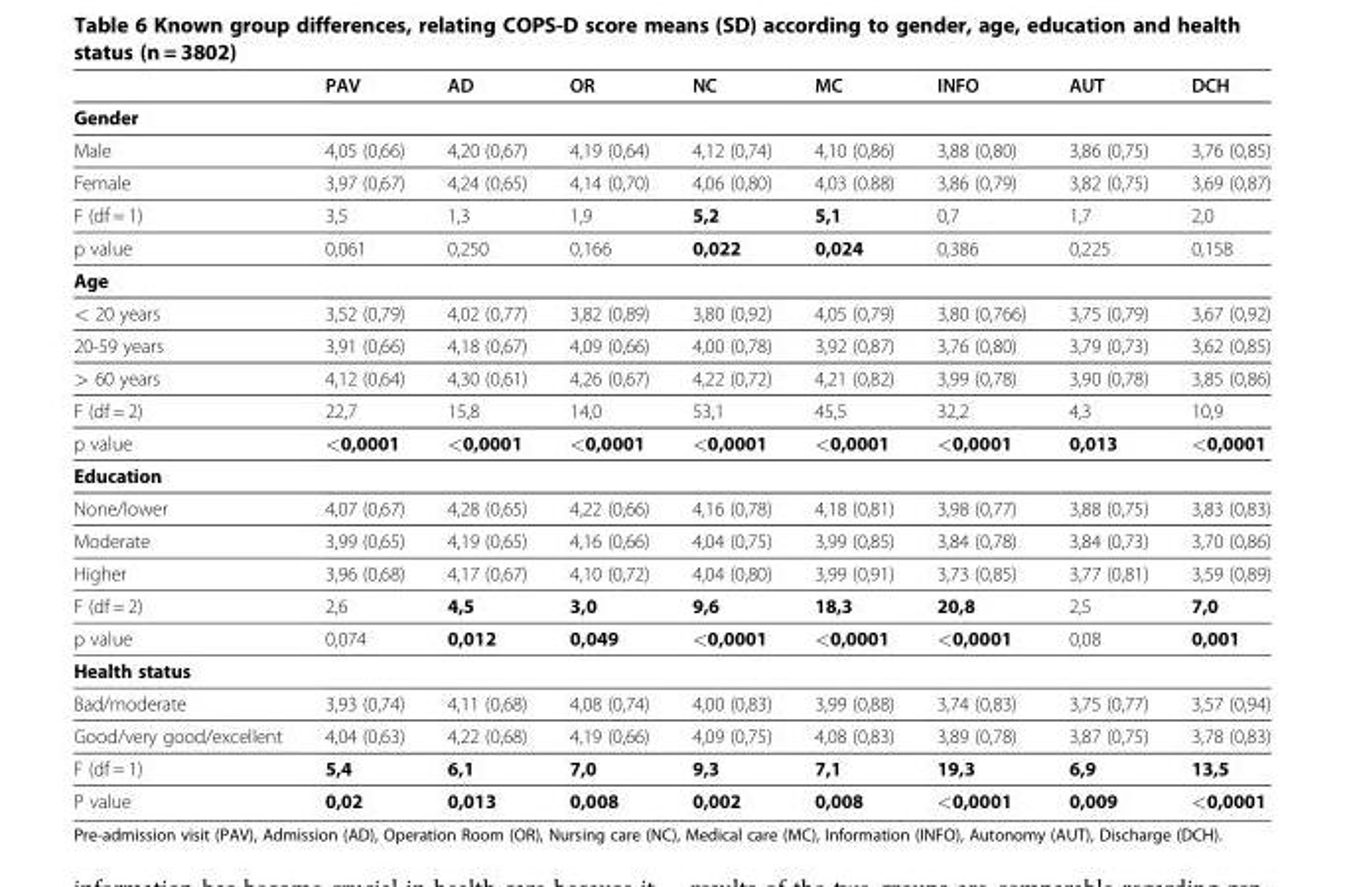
<table><thead><tr><td></td><td>PAV</td><td>AD</td><td>OR</td><td>NC</td><td>MC</td><td>INFO</td><td>AUT</td><td>DCH</td></tr></thead><tbody><tr><td colspan="9">Gender</td></tr><tr><td>Male</td><td>4,05 (0,66)</td><td>4,20 (0,67)</td><td>4,19 (0,64)</td><td>4,12 (0,74)</td><td>4,10 (0,86)</td><td>3,88 (0,80)</td><td>3,86 (0,75)</td><td>3,76 (0,85)</td></tr><tr><td>Female</td><td>3,97 (0,67)</td><td>4,24 (0,65)</td><td>4,14 (0,70)</td><td>4,06 (0,80)</td><td>4,03 (0.88)</td><td>3,86 (0,79)</td><td>3,82 (0,75)</td><td>3,69 (0,87)</td></tr><tr><td>F (df = 1)</td><td>3,5</td><td>1,3</td><td>1,9</td><td>5,2</td><td>5,1</td><td>0,7</td><td>1,7</td><td>2,0</td></tr><tr><td>p value</td><td>0,061</td><td>0,250</td><td>0,166</td><td>0,022</td><td>0,024</td><td>0,386</td><td>0,225</td><td>0,158</td></tr><tr><td colspan="9">Age</td></tr><tr><td>&lt; 20 years</td><td>3,52 (0,79)</td><td>4,02 (0,77)</td><td>3,82 (0,89)</td><td>3,80 (0,92)</td><td>4,05 (0,79)</td><td>3,80 (0,766)</td><td>3,75 (0,79)</td><td>3,67 (0,92)</td></tr><tr><td>20-59 years</td><td>3,91 (0,66)</td><td>4,18 (0,67)</td><td>4,09 (0,66)</td><td>4,00 (0,78)</td><td>3,92 (0,87)</td><td>3,76 (0,80)</td><td>3,79 (0,73)</td><td>3,62 (0,85)</td></tr><tr><td>&gt; 60 years</td><td>4,12 (0,64)</td><td>4,30 (0,61)</td><td>4,26 (0,67)</td><td>4,22 (0,72)</td><td>4,21 (0,82)</td><td>3,99 (0,78)</td><td>3,90 (0,78)</td><td>3,85 (0,86)</td></tr><tr><td>F (df = 2)</td><td>22,7</td><td>15,8</td><td>14,0</td><td>53,1</td><td>45,5</td><td>32,2</td><td>4,3</td><td>10,9</td></tr><tr><td>p value</td><td>&lt;0,0001</td><td>&lt;0,0001</td><td>&lt;0,0001</td><td>&lt;0,0001</td><td>&lt;0,0001</td><td>&lt;0,0001</td><td>0,013</td><td>&lt;0,0001</td></tr><tr><td colspan="9">Education</td></tr><tr><td>None/lower</td><td>4,07 (0,67)</td><td>4,28 (0,65)</td><td>4,22 (0,66)</td><td>4,16 (0,78)</td><td>4,18 (0,81)</td><td>3,98 (0,77)</td><td>3,88 (0,75)</td><td>3,83 (0,83)</td></tr><tr><td>Moderate</td><td>3,99 (0,65)</td><td>4,19 (0,65)</td><td>4,16 (0,66)</td><td>4,04 (0,75)</td><td>3,99 (0,85)</td><td>3,84 (0,78)</td><td>3,84 (0,73)</td><td>3,70 (0,86)</td></tr><tr><td>Higher</td><td>3,96 (0,68)</td><td>4,17 (0,67)</td><td>4,10 (0,72)</td><td>4,04 (0,80)</td><td>3,99 (0,91)</td><td>3,73 (0,85)</td><td>3,77 (0,81)</td><td>3,59 (0,89)</td></tr><tr><td>F (df = 2)</td><td>2,6</td><td>4,5</td><td>3,0</td><td>9,6</td><td>18,3</td><td>20,8</td><td>2,5</td><td>7,0</td></tr><tr><td>p value</td><td>0,074</td><td>0,012</td><td>0,049</td><td>&lt;0,0001</td><td>&lt;0,0001</td><td>&lt;0,0001</td><td>0,08</td><td>0,001</td></tr><tr><td colspan="9">Health status</td></tr><tr><td>Bad/moderate</td><td>3,93 (0,74)</td><td>4,11 (0,68)</td><td>4,08 (0,74)</td><td>4,00 (0,83)</td><td>3,99 (0,88)</td><td>3,74 (0,83)</td><td>3,75 (0,77)</td><td>3,57 (0,94)</td></tr><tr><td>Good/very good/excellent</td><td>4,04 (0,63)</td><td>4,22 (0,68)</td><td>4,19 (0,66)</td><td>4,09 (0,75)</td><td>4,08 (0,83)</td><td>3,89 (0,78)</td><td>3,87 (0,75)</td><td>3,78 (0,83)</td></tr><tr><td>F (df = 1)</td><td>5,4</td><td>6,1</td><td>7,0</td><td>9,3</td><td>7,1</td><td>19,3</td><td>6,9</td><td>13,5</td></tr><tr><td>P value</td><td>0,02</td><td>0,013</td><td>0,008</td><td>0,002</td><td>0,008</td><td>&lt;0,0001</td><td>0,009</td><td>&lt;0,0001</td></tr></tbody></table>